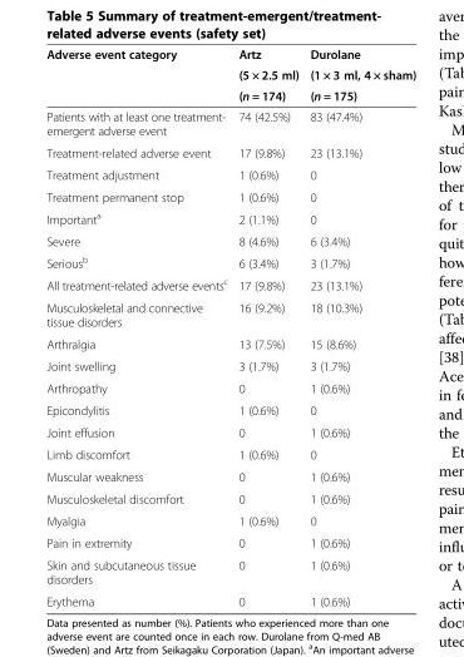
<table><thead><tr><td rowspan="3">Adverse event category</td><td rowspan="3">Artz (5 × 2.5 ml) (n = 174)</td><td rowspan="3">Durolane (1 × 3 ml, 4 × sham) (n = 175)</td></tr><tr></tr><tr></tr></thead><tbody><tr><td>Patients with at least one treatment- emergent adverse event</td><td>74 (42.5%)</td><td>83 (47.4%)</td></tr><tr><td>Treatment-related adverse event</td><td>17 (9.8%)</td><td>23 (13.1%)</td></tr><tr><td>Treatment adjustment</td><td>1 (0.6%)</td><td>0</td></tr><tr><td>Treatment permanent stop</td><td>1 (0.6%)</td><td>0</td></tr><tr><td>Important<sup>a</sup></td><td>2 (1.1%)</td><td>0</td></tr><tr><td>Severe</td><td>8 (4.6%)</td><td>6 (3.4%)</td></tr><tr><td>Serious<sup>b</sup></td><td>6 (3.4%)</td><td>3 (1.7%)</td></tr><tr><td>All treatment-related adverse events<sup>c</sup></td><td>17 (9.8%)</td><td>23 (13.1%)</td></tr><tr><td>Musculoskeletal and connective tissue disorders</td><td>16 (9.2%)</td><td>18 (10.3%)</td></tr><tr><td>Arthralgia</td><td>13 (7.5%)</td><td>15 (8.6%)</td></tr><tr><td>Joint swelling</td><td>3 (1.7%)</td><td>3 (1.7%)</td></tr><tr><td>Arthropathy</td><td>0</td><td>1 (0.6%)</td></tr><tr><td>Epicondylitis</td><td>1 (0.6%)</td><td>0</td></tr><tr><td>Joint effusion</td><td>0</td><td>1 (0.6%)</td></tr><tr><td>Limb discomfort</td><td>1 (0.6%)</td><td>0</td></tr><tr><td>Muscular weakness</td><td>0</td><td>1 (0.6%)</td></tr><tr><td>Musculoskeletal discomfort</td><td>0</td><td>1 (0.6%)</td></tr><tr><td>Myalgia</td><td>1 (0.6%)</td><td>0</td></tr><tr><td>Pain in extremity</td><td>0</td><td>1 (0.6%)</td></tr><tr><td>Skin and subcutaneous tissue disorders</td><td>0</td><td>1 (0.6%)</td></tr><tr><td>Erythema</td><td>0</td><td>1 (0.6%)</td></tr></tbody></table>